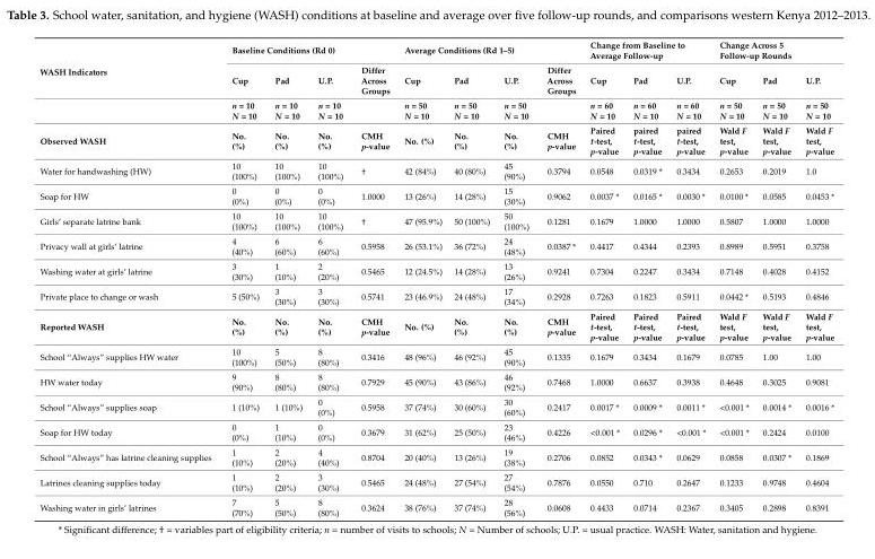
<table><thead><tr><td rowspan="3">WASH Indicators</td><td colspan="4">Baseline Conditions (Rd 0)</td><td colspan="4">Average Conditions (Rd 1–5)</td><td colspan="3">Change from Baseline to Average Follow-up</td><td colspan="3">Change Across 5 Follow-up Rounds</td></tr><tr><td rowspan="2">Cup n = 10 N = 10</td><td rowspan="2">Pad n = 10 N = 10</td><td rowspan="2">U.P. n = 10 N = 10</td><td rowspan="2">Differ Across Groups</td><td rowspan="2">Cup n = 50 N = 10</td><td rowspan="2">Pad n = 50 N = 10</td><td rowspan="2">U.P. n = 50 N = 10</td><td rowspan="2">Differ Across Groups</td><td rowspan="2">Cup n = 60 N = 10</td><td rowspan="2">Pad n = 60 N = 10</td><td rowspan="2">U.P. n = 60 N = 10</td><td rowspan="2">Cup n = 50 N = 10</td><td rowspan="2">Pad n = 50 N = 10</td><td rowspan="2">U.P. n = 50 N = 10</td></tr><tr></tr></thead><tbody><tr><td>Observed WASH</td><td>No. (%)</td><td>No. (%)</td><td>No. (%)</td><td>CMH p-value</td><td>No. (%)</td><td>No. (%)</td><td>No. (%)</td><td>CMH p-value</td><td>Paired t-test, p-value</td><td>paired t-test, p-value</td><td>paired t-test, p-value</td><td>Wald F test, p-value</td><td>Wald F test, p-value</td><td>Wald F test, p-value</td></tr><tr><td>Water for handwashing (HW)</td><td>10 (100%)</td><td>10 (100%)</td><td>10 (100%)</td><td>†</td><td>42 (84%)</td><td>40 (80%)</td><td>45 (90%)</td><td>0.3794</td><td>0.0548</td><td>0.0319 *</td><td>0.3434</td><td>0.2653</td><td>0.2019</td><td>1.0</td></tr><tr><td>Soap for HW</td><td>0 (0%)</td><td>0 (0%)</td><td>0 (0%)</td><td>1.0000</td><td>13 (26%)</td><td>14 (28%)</td><td>15 (30%)</td><td>0.9062</td><td>0.0037 *</td><td>0.0165 *</td><td>0.0030 *</td><td>0.0100 *</td><td>0.0585</td><td>0.0453 *</td></tr><tr><td>Girls’ separate latrine bank</td><td>10 (100%)</td><td>10 (100%)</td><td>10 (100%)</td><td>†</td><td>47 (95.9%)</td><td>50 (100%)</td><td>50 (100%)</td><td>0.1281</td><td>0.1679</td><td>1.0000</td><td>1.0000</td><td>0.5807</td><td>1.0000</td><td>1.0000</td></tr><tr><td>Privacy wall at girls’ latrine</td><td>4 (40%)</td><td>6 (60%)</td><td>6 (60%)</td><td>0.5958</td><td>26 (53.1%)</td><td>36 (72%)</td><td>24 (48%)</td><td>0.0387 *</td><td>0.4417</td><td>0.4344</td><td>0.2393</td><td>0.8989</td><td>0.5951</td><td>0.3758</td></tr><tr><td>Washing water at girls’ latrine</td><td>3 (30%)</td><td>1 (10%)</td><td>2 (20%)</td><td>0.5465</td><td>12 (24.5%)</td><td>14 (28%)</td><td>13 (26%)</td><td>0.9241</td><td>0.7304</td><td>0.2247</td><td>0.3434</td><td>0.7148</td><td>0.4028</td><td>0.4152</td></tr><tr><td>Private place to change or wash</td><td>5 (50%)</td><td>3 (30%)</td><td>3 (30%)</td><td>0.5741</td><td>23 (46.9%)</td><td>24 (48%)</td><td>17 (34%)</td><td>0.2928</td><td>0.7263</td><td>0.1823</td><td>0.5911</td><td>0.0442 *</td><td>0.5193</td><td>0.4846</td></tr><tr><td>Reported WASH</td><td>No. (%)</td><td>No. (%)</td><td>No. (%)</td><td>CMH p-value</td><td>No. (%)</td><td>No. (%)</td><td>No. (%)</td><td>CMH p-value</td><td>Paired t-test, p-value</td><td>Paired t-test, p-value</td><td>Paired t-test, p-value</td><td>Wald F test, p-value</td><td>Wald F test, p-value</td><td>Wald F test, p-value</td></tr><tr><td>School “Always” supplies HW water</td><td>10 (100%)</td><td>5 (50%)</td><td>8 (80%)</td><td>0.3416</td><td>48 (96%)</td><td>46 (92%)</td><td>45 (90%)</td><td>0.1335</td><td>0.1679</td><td>0.3434</td><td>0.1679</td><td>0.0785</td><td>1.00</td><td>1.00</td></tr><tr><td>HW water today</td><td>9 (90%)</td><td>8 (80%)</td><td>8 (80%)</td><td>0.7929</td><td>45 (90%)</td><td>43 (86%)</td><td>46 (92%)</td><td>0.7468</td><td>1.0000</td><td>0.6637</td><td>0.3938</td><td>0.4648</td><td>0.3025</td><td>0.9081</td></tr><tr><td>School “Always” supplies soap</td><td>1 (10%)</td><td>1 (10%)</td><td>0 (0%)</td><td>0.5958</td><td>37 (74%)</td><td>30 (60%)</td><td>30 (60%)</td><td>0.2417</td><td>0.0017 *</td><td>0.0009 *</td><td>0.0011 *</td><td>&lt;0.001 *</td><td>0.0014 *</td><td>0.0016 *</td></tr><tr><td>Soap for HW today</td><td>0 (0%)</td><td>1 (10%)</td><td>0 (0%)</td><td>0.3679</td><td>31 (62%)</td><td>25 (50%)</td><td>23 (46%)</td><td>0.4226</td><td>&lt;0.001 *</td><td>0.0296 *</td><td>&lt;0.001 *</td><td>&lt;0.001 *</td><td>0.2424</td><td>0.0100</td></tr><tr><td>School “Always” has latrine cleaning supplies</td><td>1 (10%)</td><td>2 (20%)</td><td>4 (40%)</td><td>0.8704</td><td>20 (40%)</td><td>13 (26%)</td><td>19 (38%)</td><td>0.2706</td><td>0.0852</td><td>0.0343 *</td><td>0.0629</td><td>0.0858</td><td>0.0307 *</td><td>0.1869</td></tr><tr><td>Latrines cleaning supplies today</td><td>1 (10%)</td><td>2 (20%)</td><td>3 (30%)</td><td>0.5465</td><td>24 (48%)</td><td>27 (54%)</td><td>27 (54%)</td><td>0.7876</td><td>0.0550</td><td>0.710</td><td>0.2647</td><td>0.1233</td><td>0.9748</td><td>0.4604</td></tr><tr><td>Washing water in girls’ latrines</td><td>7 (70%)</td><td>5 (50%)</td><td>8 (80%)</td><td>0.3624</td><td>38 (76%)</td><td>37 (74%)</td><td>28 (56%)</td><td>0.0608</td><td>0.4433</td><td>0.0714</td><td>0.2367</td><td>0.3405</td><td>0.2898</td><td>0.8391</td></tr></tbody></table>